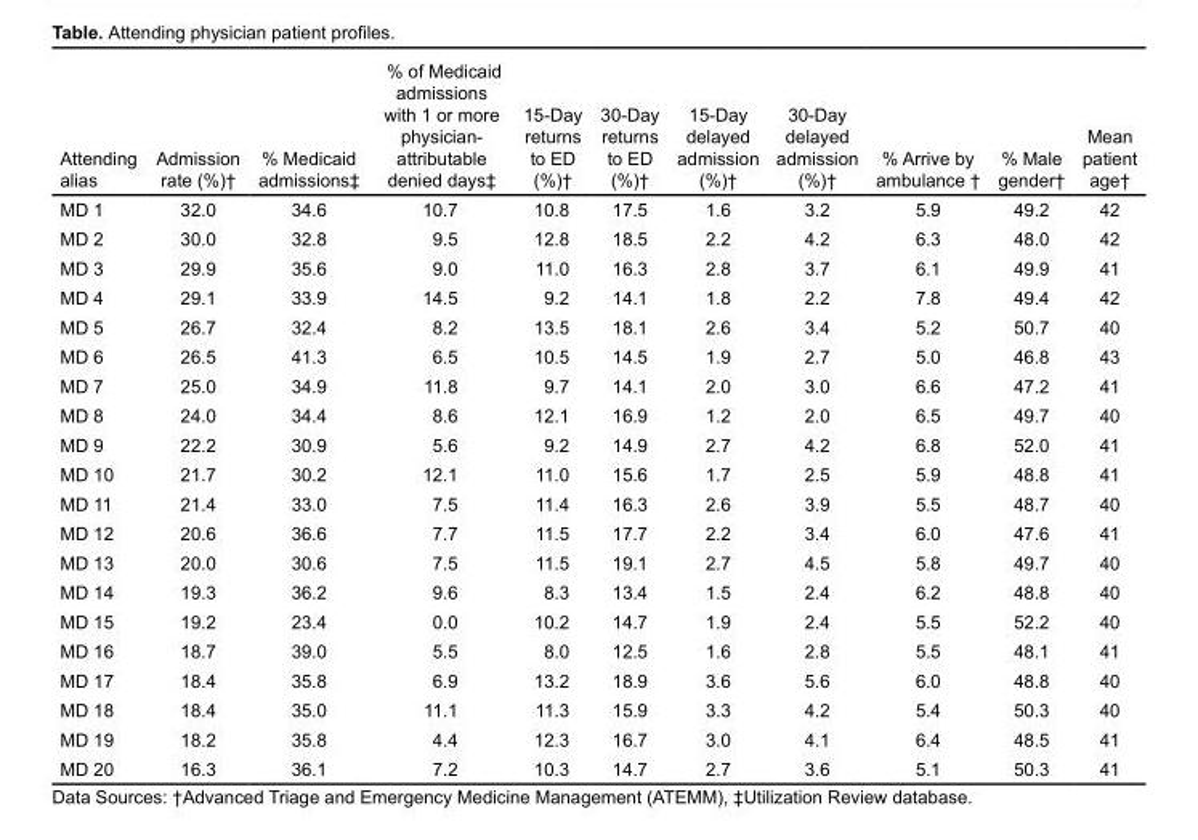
<table><thead><tr><td>Attending alias</td><td>Admission rate (%)†</td><td>% Medicaid admissions‡</td><td>% of Medicaid admissions with 1 or more physician- attributable denied days‡</td><td>15-Day returns to ED (%)†</td><td>30-Day returns to ED (%)†</td><td>15-Day delayed admission (%)†</td><td>30-Day delayed admission (%)†</td><td>% Arrive by ambulance †</td><td>% Male gender†</td><td>Mean patient age†</td></tr></thead><tbody><tr><td>MD 1</td><td>32.0</td><td>34.6</td><td>10.7</td><td>10.8</td><td>17.5</td><td>1.6</td><td>3.2</td><td>5.9</td><td>49.2</td><td>42</td></tr><tr><td>MD 2</td><td>30.0</td><td>32.8</td><td>9.5</td><td>12.8</td><td>18.5</td><td>2.2</td><td>4.2</td><td>6.3</td><td>48.0</td><td>42</td></tr><tr><td>MD 3</td><td>29.9</td><td>35.6</td><td>9.0</td><td>11.0</td><td>16.3</td><td>2.8</td><td>3.7</td><td>6.1</td><td>49.9</td><td>41</td></tr><tr><td>MD 4</td><td>29.1</td><td>33.9</td><td>14.5</td><td>9.2</td><td>14.1</td><td>1.8</td><td>2.2</td><td>7.8</td><td>49.4</td><td>42</td></tr><tr><td>MD 5</td><td>26.7</td><td>32.4</td><td>8.2</td><td>13.5</td><td>18.1</td><td>2.6</td><td>3.4</td><td>5.2</td><td>50.7</td><td>40</td></tr><tr><td>MD 6</td><td>26.5</td><td>41.3</td><td>6.5</td><td>10.5</td><td>14.5</td><td>1.9</td><td>2.7</td><td>5.0</td><td>46.8</td><td>43</td></tr><tr><td>MD 7</td><td>25.0</td><td>34.9</td><td>11.8</td><td>9.7</td><td>14.1</td><td>2.0</td><td>3.0</td><td>6.6</td><td>47.2</td><td>41</td></tr><tr><td>MD 8</td><td>24.0</td><td>34.4</td><td>8.6</td><td>12.1</td><td>16.9</td><td>1.2</td><td>2.0</td><td>6.5</td><td>49.7</td><td>40</td></tr><tr><td>MD 9</td><td>22.2</td><td>30.9</td><td>5.6</td><td>9.2</td><td>14.9</td><td>2.7</td><td>4.2</td><td>6.8</td><td>52.0</td><td>41</td></tr><tr><td>MD 10</td><td>21.7</td><td>30.2</td><td>12.1</td><td>11.0</td><td>15.6</td><td>1.7</td><td>2.5</td><td>5.9</td><td>48.8</td><td>41</td></tr><tr><td>MD 11</td><td>21.4</td><td>33.0</td><td>7.5</td><td>11.4</td><td>16.3</td><td>2.6</td><td>3.9</td><td>5.5</td><td>48.7</td><td>40</td></tr><tr><td>MD 12</td><td>20.6</td><td>36.6</td><td>7.7</td><td>11.5</td><td>17.7</td><td>2.2</td><td>3.4</td><td>6.0</td><td>47.6</td><td>41</td></tr><tr><td>MD 13</td><td>20.0</td><td>30.6</td><td>7.5</td><td>11.5</td><td>19.1</td><td>2.7</td><td>4.5</td><td>5.8</td><td>49.7</td><td>40</td></tr><tr><td>MD 14</td><td>19.3</td><td>36.2</td><td>9.6</td><td>8.3</td><td>13.4</td><td>1.5</td><td>2.4</td><td>6.2</td><td>48.8</td><td>40</td></tr><tr><td>MD 15</td><td>19.2</td><td>23.4</td><td>0.0</td><td>10.2</td><td>14.7</td><td>1.9</td><td>2.4</td><td>5.5</td><td>52.2</td><td>40</td></tr><tr><td>MD 16</td><td>18.7</td><td>39.0</td><td>5.5</td><td>8.0</td><td>12.5</td><td>1.6</td><td>2.8</td><td>5.5</td><td>48.1</td><td>41</td></tr><tr><td>MD 17</td><td>18.4</td><td>35.8</td><td>6.9</td><td>13.2</td><td>18.9</td><td>3.6</td><td>5.6</td><td>6.0</td><td>48.8</td><td>40</td></tr><tr><td>MD 18</td><td>18.4</td><td>35.0</td><td>11.1</td><td>11.3</td><td>15.9</td><td>3.3</td><td>4.2</td><td>5.4</td><td>50.3</td><td>40</td></tr><tr><td>MD 19</td><td>18.2</td><td>35.8</td><td>4.4</td><td>12.3</td><td>16.7</td><td>3.0</td><td>4.1</td><td>6.4</td><td>48.5</td><td>41</td></tr><tr><td>MD 20</td><td>16.3</td><td>36.1</td><td>7.2</td><td>10.3</td><td>14.7</td><td>2.7</td><td>3.6</td><td>5.1</td><td>50.3</td><td>41</td></tr></tbody></table>